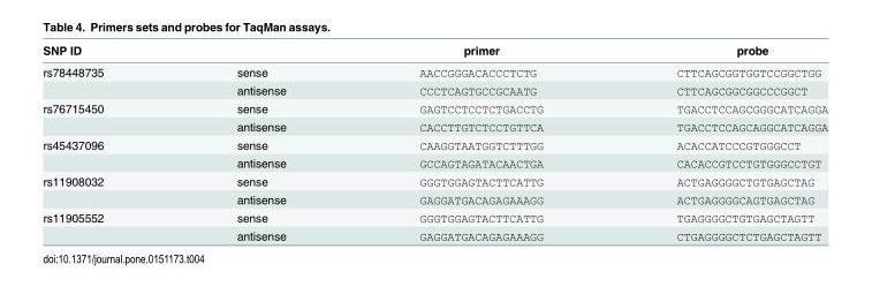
<table><thead><tr><td>SNP ID</td><td></td><td>primer</td><td>probe</td></tr></thead><tbody><tr><td rowspan="2">rs78448735</td><td>sense</td><td>AACCGGGACACCCTCTG</td><td>CTTCAGCGGTGGTCCGGCTGG</td></tr><tr><td>antisense</td><td>CCCTCAGTGCCGCAATG</td><td>CTTCAGCGGCGGCCCGGCT</td></tr><tr><td rowspan="2">rs76715450</td><td>sense</td><td>GAGTCCTCCTCTGACCTG</td><td>TGACCTCCAGCGGGCATCAGGA</td></tr><tr><td>antisense</td><td>CACCTTGTCTCCTGTTCA</td><td>TGACCTCCAGCAGGCATCAGGA</td></tr><tr><td rowspan="2">rs45437096</td><td>sense</td><td>CAAGGTAATGGTCTTTGG</td><td>ACACCATCCCGTGGGCCT</td></tr><tr><td>antisense</td><td>GCCAGTAGATACAACTGA</td><td>CACACCGTCCTGTGGGCCTGT</td></tr><tr><td rowspan="2">rs11908032</td><td>sense</td><td>GGGTGGAGTACTTCATTG</td><td>ACTGAGGGGCTGTGAGCTAG</td></tr><tr><td>antisense</td><td>GAGGATGACAGAGAAAGG</td><td>ACTGAGGGGCAGTGAGCTAG</td></tr><tr><td rowspan="2">rs11905552</td><td>sense</td><td>GGGTGGAGTACTTCATTG</td><td>TGAGGGGCTGTGAGCTAGTT</td></tr><tr><td>antisense</td><td>GAGGATGACAGAGAAAGG</td><td>CTGAGGGGCTCTGAGCTAGTT</td></tr></tbody></table>